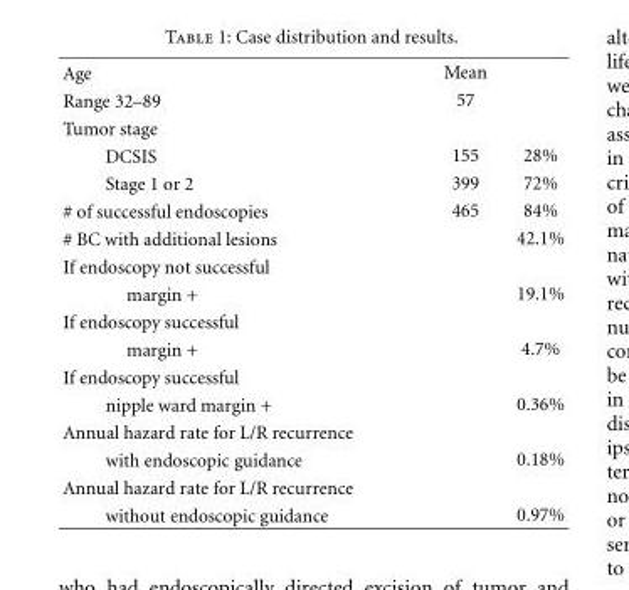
<table><tbody><tr><td>Age</td><td>Mean</td><td></td></tr><tr><td>Range 32–89</td><td>57</td><td></td></tr><tr><td colspan="3">Tumor stage</td></tr><tr><td>DCSIS</td><td>155</td><td>28%</td></tr><tr><td>Stage 1 or 2</td><td>399</td><td>72%</td></tr><tr><td># of successful endoscopies</td><td>465</td><td>84%</td></tr><tr><td># BC with additional lesions</td><td></td><td>42.1%</td></tr><tr><td colspan="3">If endoscopy not successful</td></tr><tr><td>margin +</td><td></td><td>19.1%</td></tr><tr><td colspan="3">If endoscopy successful</td></tr><tr><td>margin +</td><td></td><td>4.7%</td></tr><tr><td colspan="3">If endoscopy successful</td></tr><tr><td>nipple ward margin +</td><td></td><td>0.36%</td></tr><tr><td colspan="3">Annual hazard rate for L/R recurrence</td></tr><tr><td>with endoscopic guidance</td><td></td><td>0.18%</td></tr><tr><td colspan="3">Annual hazard rate for L/R recurrence</td></tr><tr><td>without endoscopic guidance</td><td></td><td>0.97%</td></tr></tbody></table>